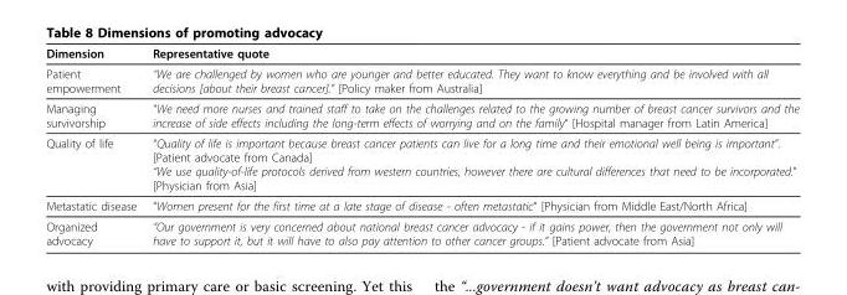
<table><thead><tr><td>Dimension</td><td>Representative quote</td></tr></thead><tbody><tr><td>Patient empowerment</td><td>“We are challenged by women who are younger and better educated. They want to know everything and be involved with all decisions [about their breast cancer].” [Policy maker from Australia]</td></tr><tr><td>Managing survivorship</td><td>“We need more nurses and trained staff to take on the challenges related to the growing number of breast cancer survivors and the increase of side effects including the long-term effects of worrying and on the family“ [Hospital manager from Latin America]</td></tr><tr><td>Quality of life</td><td>“Quality of life is important because breast cancer patients can live for a long time and their emotional well being is important”. [Patient advocate from Canada] “We use quality-of-life protocols derived from western countries, however there are cultural differences that need to be incorporated.” [Physician from Asia]</td></tr><tr><td>Metastatic disease</td><td>“Women present for the first time at a late stage of disease - often metastatic“ [Physician from Middle East/North Africa]</td></tr><tr><td>Organized advocacy</td><td>“Our government is very concerned about national breast cancer advocacy - if it gains power, then the government not only will have to support it, but it will have to also pay attention to other cancer groups.” [Patient advocate from Asia]</td></tr></tbody></table>